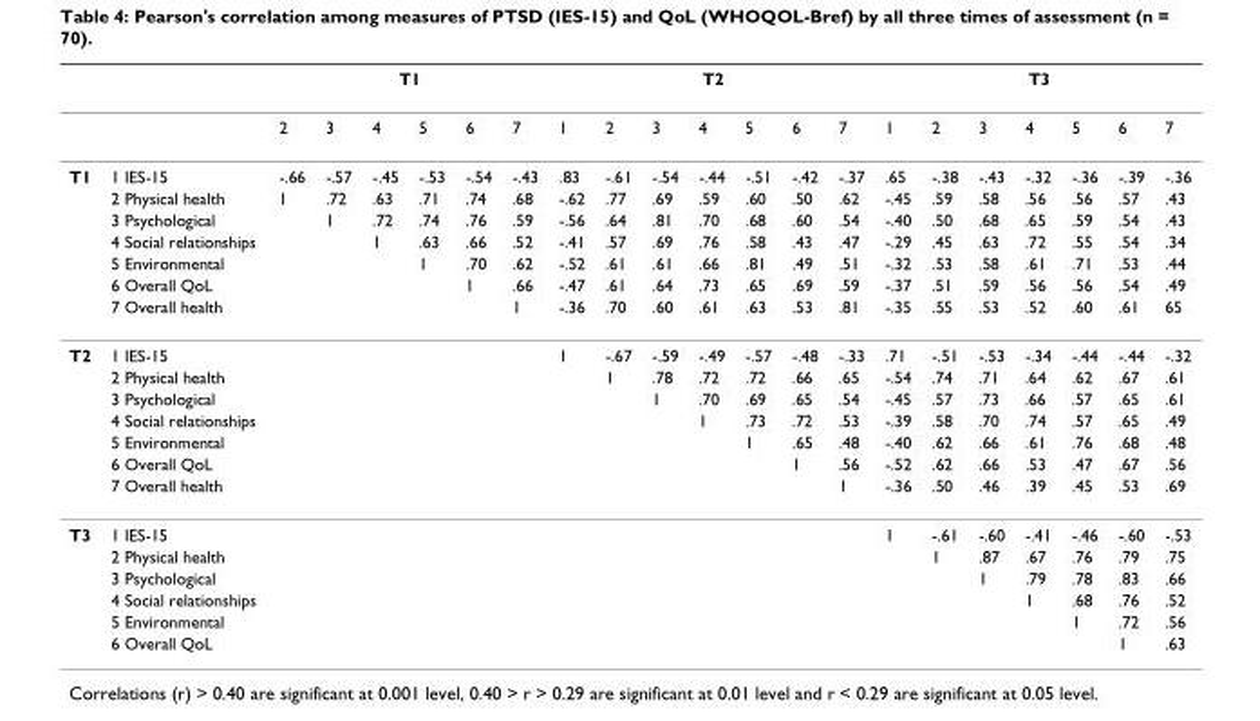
<table><thead><tr><td rowspan="2"></td><td rowspan="2"></td><td colspan="6">T1</td><td colspan="7">T2</td><td colspan="7">T3</td></tr><tr><td>2</td><td>3</td><td>4</td><td>5</td><td>6</td><td>7</td><td>1</td><td>2</td><td>3</td><td>4</td><td>5</td><td>6</td><td>7</td><td>1</td><td>2</td><td>3</td><td>4</td><td>5</td><td>6</td><td>7</td></tr></thead><tbody><tr><td rowspan="7">T1</td><td>1 IES-15</td><td>-.66</td><td>-.57</td><td>-.45</td><td>-.53</td><td>-.54</td><td>-.43</td><td>.83</td><td>-.61</td><td>-.54</td><td>-.44</td><td>-.51</td><td>-.42</td><td>-.37</td><td>.65</td><td>-.38</td><td>-.43</td><td>-.32</td><td>-.36</td><td>-.39</td><td>-.36</td></tr><tr><td>2 Physical health</td><td>1</td><td>.72</td><td>.63</td><td>.71</td><td>.74</td><td>.68</td><td>-.62</td><td>.77</td><td>.69</td><td>.59</td><td>.60</td><td>.50</td><td>.62</td><td>-.45</td><td>.59</td><td>.58</td><td>.56</td><td>.56</td><td>.57</td><td>.43</td></tr><tr><td>3 Psychological</td><td></td><td>1</td><td>.72</td><td>.74</td><td>.76</td><td>.59</td><td>-.56</td><td>.64</td><td>.81</td><td>.70</td><td>.68</td><td>.60</td><td>.54</td><td>-.40</td><td>.50</td><td>.68</td><td>.65</td><td>.59</td><td>.54</td><td>.43</td></tr><tr><td>4 Social relationships</td><td></td><td></td><td>1</td><td>.63</td><td>.66</td><td>.52</td><td>-.41</td><td>.57</td><td>.69</td><td>.76</td><td>.58</td><td>.43</td><td>.47</td><td>-.29</td><td>.45</td><td>.63</td><td>.72</td><td>.55</td><td>.54</td><td>.34</td></tr><tr><td>5 Environmental</td><td></td><td></td><td></td><td>1</td><td>.70</td><td>.62</td><td>-.52</td><td>.61</td><td>.61</td><td>.66</td><td>.81</td><td>.49</td><td>.51</td><td>-.32</td><td>.53</td><td>.58</td><td>.61</td><td>.71</td><td>.53</td><td>.44</td></tr><tr><td>6 Overall QoL</td><td></td><td></td><td></td><td></td><td>1</td><td>.66</td><td>-.47</td><td>.61</td><td>.64</td><td>.73</td><td>.65</td><td>.69</td><td>.59</td><td>-.37</td><td>.51</td><td>.59</td><td>.56</td><td>.56</td><td>.54</td><td>.49</td></tr><tr><td>7 Overall health</td><td></td><td></td><td></td><td></td><td></td><td>1</td><td>-.36</td><td>.70</td><td>.60</td><td>.61</td><td>.63</td><td>.53</td><td>.81</td><td>-.35</td><td>.55</td><td>.53</td><td>.52</td><td>.60</td><td>.61</td><td>65</td></tr><tr><td rowspan="7">T2</td><td>1 IES-15</td><td></td><td></td><td></td><td></td><td></td><td></td><td>1</td><td>-.67</td><td>-.59</td><td>-.49</td><td>-.57</td><td>-.48</td><td>-.33</td><td>.71</td><td>-.51</td><td>-.53</td><td>-.34</td><td>-.44</td><td>-.44</td><td>-.32</td></tr><tr><td>2 Physical health</td><td></td><td></td><td></td><td></td><td></td><td></td><td></td><td>1</td><td>.78</td><td>.72</td><td>.72</td><td>.66</td><td>.65</td><td>-.54</td><td>.74</td><td>.71</td><td>.64</td><td>.62</td><td>.67</td><td>.61</td></tr><tr><td>3 Psychological</td><td></td><td></td><td></td><td></td><td></td><td></td><td></td><td></td><td>1</td><td>.70</td><td>.69</td><td>.65</td><td>.54</td><td>-.45</td><td>.57</td><td>.73</td><td>.66</td><td>.57</td><td>.65</td><td>.61</td></tr><tr><td>4 Social relationships</td><td></td><td></td><td></td><td></td><td></td><td></td><td></td><td></td><td></td><td>1</td><td>.73</td><td>.72</td><td>.53</td><td>-.39</td><td>.58</td><td>.70</td><td>.74</td><td>.57</td><td>.65</td><td>.49</td></tr><tr><td>5 Environmental</td><td></td><td></td><td></td><td></td><td></td><td></td><td></td><td></td><td></td><td></td><td>1</td><td>.65</td><td>.48</td><td>-.40</td><td>.62</td><td>.66</td><td>.61</td><td>.76</td><td>.68</td><td>.48</td></tr><tr><td>6 Overall QoL</td><td></td><td></td><td></td><td></td><td></td><td></td><td></td><td></td><td></td><td></td><td></td><td>1</td><td>.56</td><td>-.52</td><td>.62</td><td>.66</td><td>.53</td><td>.47</td><td>.67</td><td>.56</td></tr><tr><td>7 Overall health</td><td></td><td></td><td></td><td></td><td></td><td></td><td></td><td></td><td></td><td></td><td></td><td></td><td>1</td><td>-.36</td><td>.50</td><td>.46</td><td>.39</td><td>.45</td><td>.53</td><td>.69</td></tr><tr><td rowspan="6">T3</td><td>1 IES-15</td><td></td><td></td><td></td><td></td><td></td><td></td><td></td><td></td><td></td><td></td><td></td><td></td><td></td><td>1</td><td>-.61</td><td>-.60</td><td>-.41</td><td>-.46</td><td>-.60</td><td>-.53</td></tr><tr><td>2 Physical health</td><td></td><td></td><td></td><td></td><td></td><td></td><td></td><td></td><td></td><td></td><td></td><td></td><td></td><td></td><td>1</td><td>.87</td><td>.67</td><td>.76</td><td>.79</td><td>.75</td></tr><tr><td>3 Psychological</td><td></td><td></td><td></td><td></td><td></td><td></td><td></td><td></td><td></td><td></td><td></td><td></td><td></td><td></td><td></td><td>1</td><td>.79</td><td>.78</td><td>.83</td><td>.66</td></tr><tr><td>4 Social relationships</td><td></td><td></td><td></td><td></td><td></td><td></td><td></td><td></td><td></td><td></td><td></td><td></td><td></td><td></td><td></td><td></td><td>1</td><td>.68</td><td>.76</td><td>.52</td></tr><tr><td>5 Environmental</td><td></td><td></td><td></td><td></td><td></td><td></td><td></td><td></td><td></td><td></td><td></td><td></td><td></td><td></td><td></td><td></td><td></td><td>1</td><td>.72</td><td>.56</td></tr><tr><td>6 Overall QoL</td><td></td><td></td><td></td><td></td><td></td><td></td><td></td><td></td><td></td><td></td><td></td><td></td><td></td><td></td><td></td><td></td><td></td><td></td><td>1</td><td>.63</td></tr></tbody></table>